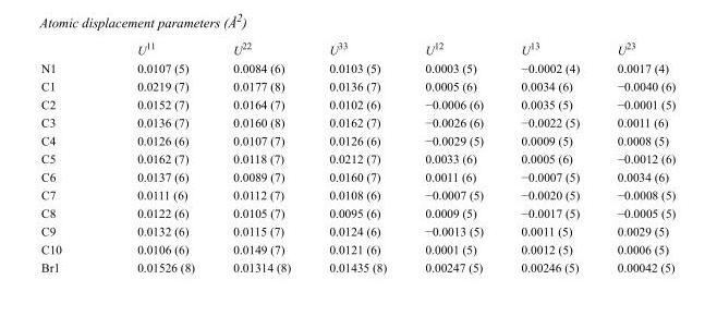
<table><thead><tr><td></td><td>U<sup>11</sup></td><td>U<sup>22</sup></td><td>U<sup>33</sup></td><td>U<sup>12</sup></td><td>U<sup>13</sup></td><td>U<sup>23</sup></td></tr></thead><tbody><tr><td>N1</td><td>0.0107 (5)</td><td>0.0084 (6)</td><td>0.0103 (5)</td><td>0.0003 (5)</td><td>−0.0002 (4)</td><td>0.0017 (4)</td></tr><tr><td>C1</td><td>0.0219 (7)</td><td>0.0177 (8)</td><td>0.0136 (7)</td><td>0.0005 (6)</td><td>0.0034 (6)</td><td>−0.0040 (6)</td></tr><tr><td>C2</td><td>0.0152 (7)</td><td>0.0164 (7)</td><td>0.0102 (6)</td><td>−0.0006 (6)</td><td>0.0035 (5)</td><td>−0.0001 (5)</td></tr><tr><td>C3</td><td>0.0136 (7)</td><td>0.0160 (8)</td><td>0.0162 (7)</td><td>−0.0026 (6)</td><td>−0.0022 (5)</td><td>0.0011 (6)</td></tr><tr><td>C4</td><td>0.0126 (6)</td><td>0.0107 (7)</td><td>0.0126 (6)</td><td>−0.0029 (5)</td><td>0.0009 (5)</td><td>0.0008 (5)</td></tr><tr><td>C5</td><td>0.0162 (7)</td><td>0.0118 (7)</td><td>0.0212 (7)</td><td>0.0033 (6)</td><td>0.0005 (6)</td><td>−0.0012 (6)</td></tr><tr><td>C6</td><td>0.0137 (6)</td><td>0.0089 (7)</td><td>0.0160 (7)</td><td>0.0011 (6)</td><td>−0.0007 (5)</td><td>0.0034 (6)</td></tr><tr><td>C7</td><td>0.0111 (6)</td><td>0.0112 (7)</td><td>0.0108 (6)</td><td>−0.0007 (5)</td><td>−0.0020 (5)</td><td>−0.0008 (5)</td></tr><tr><td>C8</td><td>0.0122 (6)</td><td>0.0105 (7)</td><td>0.0095 (6)</td><td>0.0009 (5)</td><td>−0.0017 (5)</td><td>−0.0005 (5)</td></tr><tr><td>C9</td><td>0.0132 (6)</td><td>0.0115 (7)</td><td>0.0124 (6)</td><td>−0.0013 (5)</td><td>0.0011 (5)</td><td>0.0029 (5)</td></tr><tr><td>C10</td><td>0.0106 (6)</td><td>0.0149 (7)</td><td>0.0121 (6)</td><td>0.0001 (5)</td><td>0.0012 (5)</td><td>0.0006 (5)</td></tr><tr><td>Br1</td><td>0.01526 (8)</td><td>0.01314 (8)</td><td>0.01435 (8)</td><td>0.00247 (5)</td><td>0.00246 (5)</td><td>0.00042 (5)</td></tr></tbody></table>